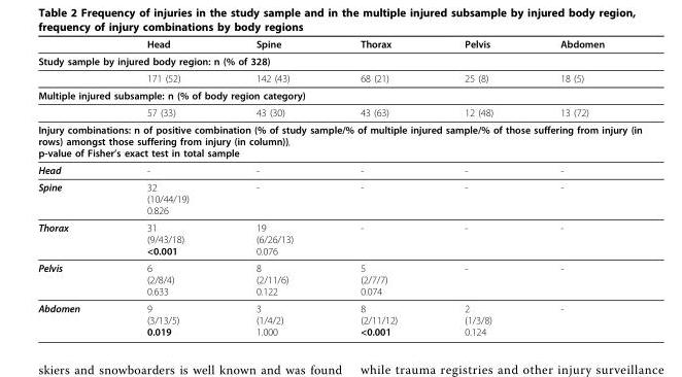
<table><thead><tr><td></td><td>Head</td><td>Spine</td><td>Thorax</td><td>Pelvis</td><td>Abdomen</td></tr></thead><tbody><tr><td colspan="6">Study sample by injured body region: n (% of 328)</td></tr><tr><td></td><td>171 (52)</td><td>142 (43)</td><td>68 (21)</td><td>25 (8)</td><td>18 (5)</td></tr><tr><td colspan="6">Multiple injured subsample: n (% of body region category)</td></tr><tr><td></td><td>57 (33)</td><td>43 (30)</td><td>43 (63)</td><td>12 (48)</td><td>13 (72)</td></tr><tr><td colspan="6">Injury combinations: n of positive combination (% of study sample/% of multiple injured sample/% of those suffering from injury (in rows) amongst those suffering from injury (in column)), p-value of Fisher’s exact test in total sample</td></tr><tr><td>Head</td><td>-</td><td>-</td><td>-</td><td>-</td><td>-</td></tr><tr><td>Spine</td><td>32 (10/44/19) 0.826</td><td>-</td><td>-</td><td>-</td><td>-</td></tr><tr><td>Thorax</td><td>31 (9/43/18) &lt;0.001</td><td>19 (6/26/13) 0.076</td><td>-</td><td>-</td><td>-</td></tr><tr><td>Pelvis</td><td>6 (2/8/4) 0.633</td><td>8 (2/11/6) 0.122</td><td>5 (2/7/7) 0.074</td><td>-</td><td>-</td></tr><tr><td>Abdomen</td><td>9 (3/13/5) 0.019</td><td>3 (1/4/2) 1.000</td><td>8 (2/11/12) &lt;0.001</td><td>2 (1/3/8) 0.124</td><td>-</td></tr></tbody></table>